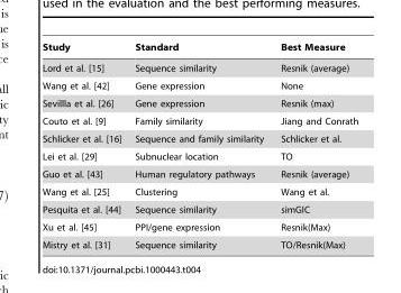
<table><thead><tr><td>Study</td><td>Standard</td><td>Best Measure</td></tr></thead><tbody><tr><td>Lord et al. [15]</td><td>Sequence similarity</td><td>Resnik (average)</td></tr><tr><td>Wang et al. [42]</td><td>Gene expression</td><td>None</td></tr><tr><td>Sevillla et al. [26]</td><td>Gene expression</td><td>Resnik (max)</td></tr><tr><td>Couto et al. [9]</td><td>Family similarity</td><td>Jiang and Conrath</td></tr><tr><td>Schlicker et al. [16]</td><td>Sequence and family similarity</td><td>Schlicker et al.</td></tr><tr><td>Lei et al. [29]</td><td>Subnuclear location</td><td>TO</td></tr><tr><td>Guo et al. [43]</td><td>Human regulatory pathways</td><td>Resnik (average)</td></tr><tr><td>Wang et al. [25]</td><td>Clustering</td><td>Wang et al.</td></tr><tr><td>Pesquita et al. [44]</td><td>Sequence similarity</td><td>simGIC</td></tr><tr><td>Xu et al. [45]</td><td>PPI/gene expression</td><td>Resnik(Max)</td></tr><tr><td>Mistry et al. [31]</td><td>Sequence similarity</td><td>TO/Resnik(Max)</td></tr></tbody></table>